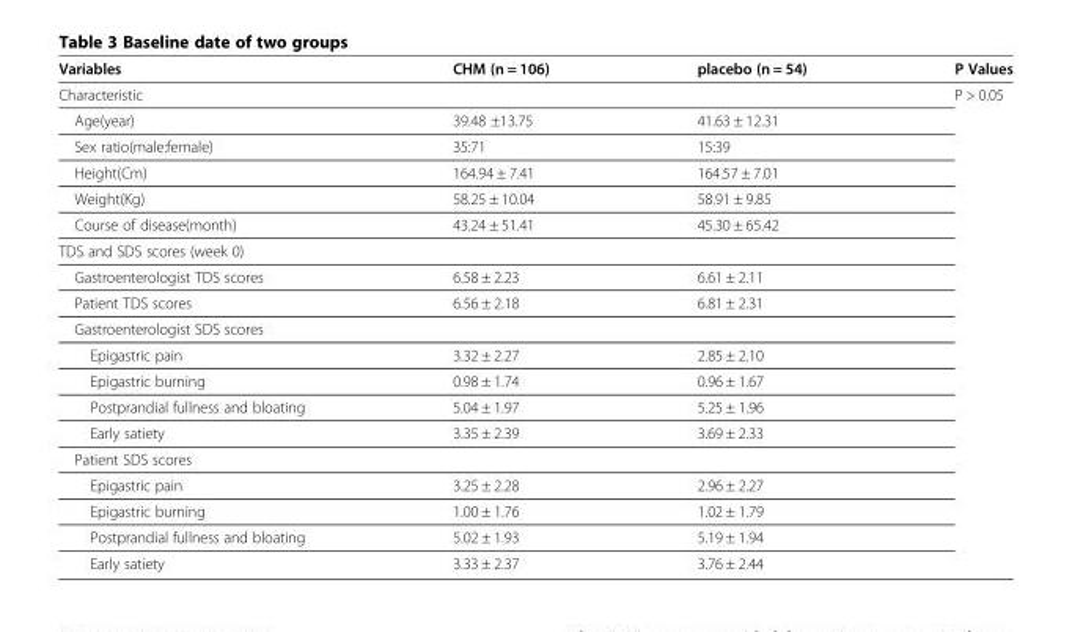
<table><thead><tr><td>Variables</td><td>CHM (n = 106)</td><td>placebo (n = 54)</td><td>P Values</td></tr></thead><tbody><tr><td colspan="3">Characteristic</td><td rowspan="19">P &gt; 0.05</td></tr><tr><td>Age(year)</td><td>39.48 ±13.75</td><td>41.63 ± 12.31</td></tr><tr><td>Sex ratio(male:female)</td><td>35:71</td><td>15:39</td></tr><tr><td>Height(Cm)</td><td>164.94 ± 7.41</td><td>164.57 ± 7.01</td></tr><tr><td>Weight(Kg)</td><td>58.25 ± 10.04</td><td>58.91 ± 9.85</td></tr><tr><td>Course of disease(month)</td><td>43.24 ± 51.41</td><td>45.30 ± 65.42</td></tr><tr><td colspan="3">TDS and SDS scores (week 0)</td></tr><tr><td>Gastroenterologist TDS scores</td><td>6.58 ± 2.23</td><td>6.61 ± 2.11</td></tr><tr><td>Patient TDS scores</td><td>6.56 ± 2.18</td><td>6.81 ± 2.31</td></tr><tr><td colspan="3">Gastroenterologist SDS scores</td></tr><tr><td>Epigastric pain</td><td>3.32 ± 2.27</td><td>2.85 ± 2.10</td></tr><tr><td>Epigastric burning</td><td>0.98 ± 1.74</td><td>0.96 ± 1.67</td></tr><tr><td>Postprandial fullness and bloating</td><td>5.04 ± 1.97</td><td>5.25 ± 1.96</td></tr><tr><td>Early satiety</td><td>3.35 ± 2.39</td><td>3.69 ± 2.33</td></tr><tr><td colspan="3">Patient SDS scores</td></tr><tr><td>Epigastric pain</td><td>3.25 ± 2.28</td><td>2.96 ± 2.27</td></tr><tr><td>Epigastric burning</td><td>1.00 ± 1.76</td><td>1.02 ± 1.79</td></tr><tr><td>Postprandial fullness and bloating</td><td>5.02 ± 1.93</td><td>5.19 ± 1.94</td></tr><tr><td>Early satiety</td><td>3.33 ± 2.37</td><td>3.76 ± 2.44</td></tr></tbody></table>